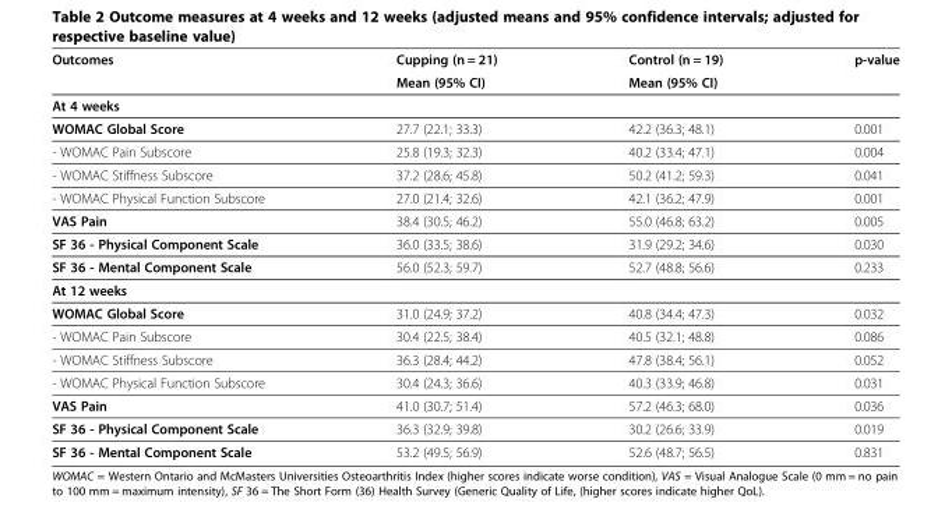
<table><thead><tr><td rowspan="2">Outcomes</td><td rowspan="2">Cupping (n = 21) Mean (95% CI)</td><td rowspan="2">Control (n = 19) Mean (95% CI)</td><td rowspan="2">p-value</td></tr><tr></tr></thead><tbody><tr><td colspan="4">At 4 weeks</td></tr><tr><td>WOMAC Global Score</td><td>27.7 (22.1; 33.3)</td><td>42.2 (36.3; 48.1)</td><td>0.001</td></tr><tr><td>- WOMAC Pain Subscore</td><td>25.8 (19.3; 32.3)</td><td>40.2 (33.4; 47.1)</td><td>0.004</td></tr><tr><td>- WOMAC Stiffness Subscore</td><td>37.2 (28.6; 45.8)</td><td>50.2 (41.2; 59.3)</td><td>0.041</td></tr><tr><td>- WOMAC Physical Function Subscore</td><td>27.0 (21.4; 32.6)</td><td>42.1 (36.2; 47.9)</td><td>0.001</td></tr><tr><td>VAS Pain</td><td>38.4 (30.5; 46.2)</td><td>55.0 (46.8; 63.2)</td><td>0.005</td></tr><tr><td>SF 36 - Physical Component Scale</td><td>36.0 (33.5; 38.6)</td><td>31.9 (29.2; 34.6)</td><td>0.030</td></tr><tr><td>SF 36 - Mental Component Scale</td><td>56.0 (52.3; 59.7)</td><td>52.7 (48.8; 56.6)</td><td>0.233</td></tr><tr><td colspan="4">At 12 weeks</td></tr><tr><td>WOMAC Global Score</td><td>31.0 (24.9; 37.2)</td><td>40.8 (34.4; 47.3)</td><td>0.032</td></tr><tr><td>- WOMAC Pain Subscore</td><td>30.4 (22.5; 38.4)</td><td>40.5 (32.1; 48.8)</td><td>0.086</td></tr><tr><td>- WOMAC Stiffness Subscore</td><td>36.3 (28.4; 44.2)</td><td>47.8 (38.4; 56.1)</td><td>0.052</td></tr><tr><td>- WOMAC Physical Function Subscore</td><td>30.4 (24.3; 36.6)</td><td>40.3 (33.9; 46.8)</td><td>0.031</td></tr><tr><td>VAS Pain</td><td>41.0 (30.7; 51.4)</td><td>57.2 (46.3; 68.0)</td><td>0.036</td></tr><tr><td>SF 36 - Physical Component Scale</td><td>36.3 (32.9; 39.8)</td><td>30.2 (26.6; 33.9)</td><td>0.019</td></tr><tr><td>SF 36 - Mental Component Scale</td><td>53.2 (49.5; 56.9)</td><td>52.6 (48.7; 56.5)</td><td>0.831</td></tr></tbody></table>